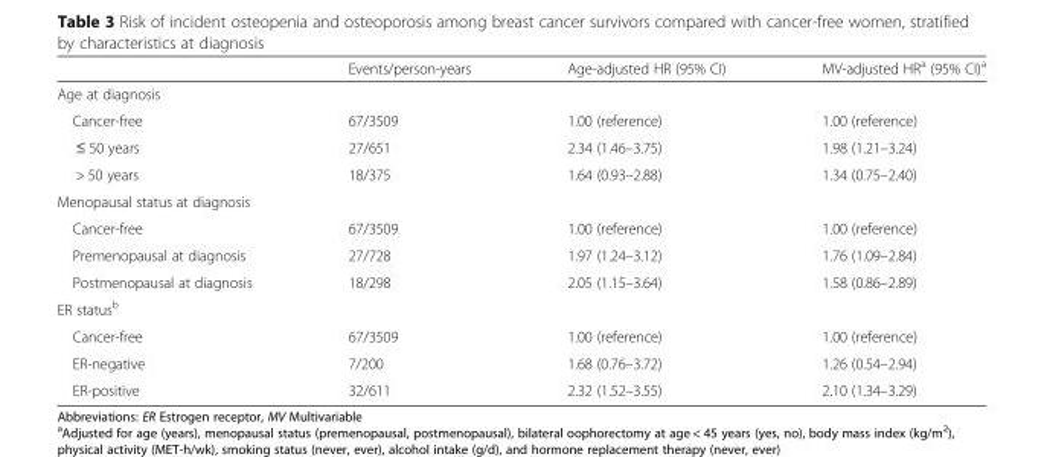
<table><thead><tr><td></td><td>Events/person-years</td><td>Age-adjusted HR (95% CI)</td><td>MV-adjusted HR<sup>a</sup> (95% CI)<sup>a</sup></td></tr></thead><tbody><tr><td colspan="4">Age at diagnosis</td></tr><tr><td>Cancer-free</td><td>67/3509</td><td>1.00 (reference)</td><td>1.00 (reference)</td></tr><tr><td>≤ 50 years</td><td>27/651</td><td>2.34 (1.46–3.75)</td><td>1.98 (1.21–3.24)</td></tr><tr><td>&gt; 50 years</td><td>18/375</td><td>1.64 (0.93–2.88)</td><td>1.34 (0.75–2.40)</td></tr><tr><td colspan="4">Menopausal status at diagnosis</td></tr><tr><td>Cancer-free</td><td>67/3509</td><td>1.00 (reference)</td><td>1.00 (reference)</td></tr><tr><td>Premenopausal at diagnosis</td><td>27/728</td><td>1.97 (1.24–3.12)</td><td>1.76 (1.09–2.84)</td></tr><tr><td>Postmenopausal at diagnosis</td><td>18/298</td><td>2.05 (1.15–3.64)</td><td>1.58 (0.86–2.89)</td></tr><tr><td colspan="4">ER status<sup>b</sup></td></tr><tr><td>Cancer-free</td><td>67/3509</td><td>1.00 (reference)</td><td>1.00 (reference)</td></tr><tr><td>ER-negative</td><td>7/200</td><td>1.68 (0.76–3.72)</td><td>1.26 (0.54–2.94)</td></tr><tr><td>ER-positive</td><td>32/611</td><td>2.32 (1.52–3.55)</td><td>2.10 (1.34–3.29)</td></tr></tbody></table>